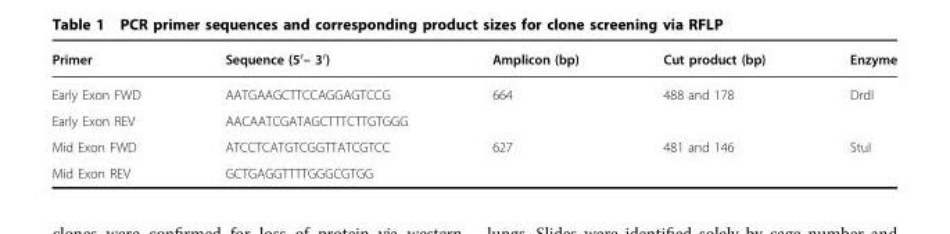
<table><thead><tr><td>Primer</td><td>Sequence (5′– 3′)</td><td>Amplicon (bp)</td><td>Cut product (bp)</td><td>Enzyme</td></tr></thead><tbody><tr><td>Early Exon FWD</td><td>AATGAAGCTTCCAGGAGTCCG</td><td>664</td><td>488 and 178</td><td>DrdI</td></tr><tr><td>Early Exon REV</td><td>AACAATCGATAGCTTTCTTGTGGG</td><td></td><td></td><td></td></tr><tr><td>Mid Exon FWD</td><td>ATCCTCATGTCGGTTATCGTCC</td><td>627</td><td>481 and 146</td><td>StuI</td></tr><tr><td>Mid Exon REV</td><td>GCTGAGGTTTTGGGCGTGG</td><td></td><td></td><td></td></tr></tbody></table>